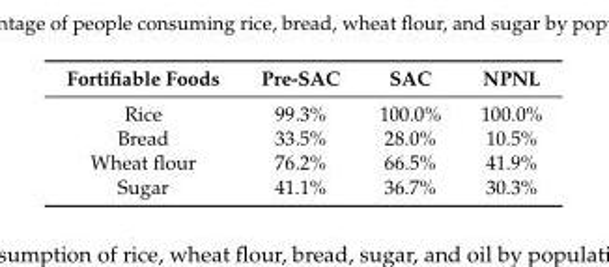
<table><thead><tr><td>Fortifiable Foods</td><td>Pre-SAC</td><td>SAC</td><td>NPNL</td></tr></thead><tbody><tr><td>Rice</td><td>99.3%</td><td>100.0%</td><td>100.0%</td></tr><tr><td>Bread</td><td>33.5%</td><td>28.0%</td><td>10.5%</td></tr><tr><td>Wheat flour</td><td>76.2%</td><td>66.5%</td><td>41.9%</td></tr><tr><td>Sugar</td><td>41.1%</td><td>36.7%</td><td>30.3%</td></tr></tbody></table>